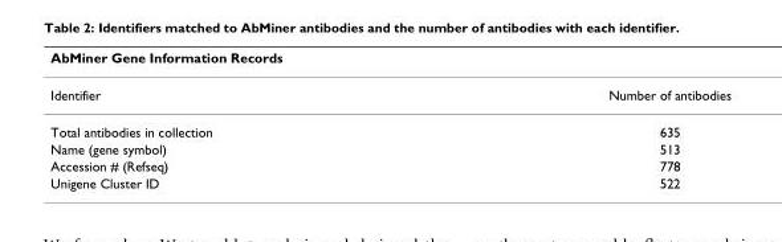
<table><thead><tr><td colspan="2">AbMiner Gene Information Records</td></tr><tr><td>Identifier</td><td>Number of antibodies</td></tr></thead><tbody><tr><td>Total antibodies in collection</td><td>635</td></tr><tr><td>Name (gene symbol)</td><td>513</td></tr><tr><td>Accession # (Refseq)</td><td>778</td></tr><tr><td>Unigene Cluster ID</td><td>522</td></tr></tbody></table>